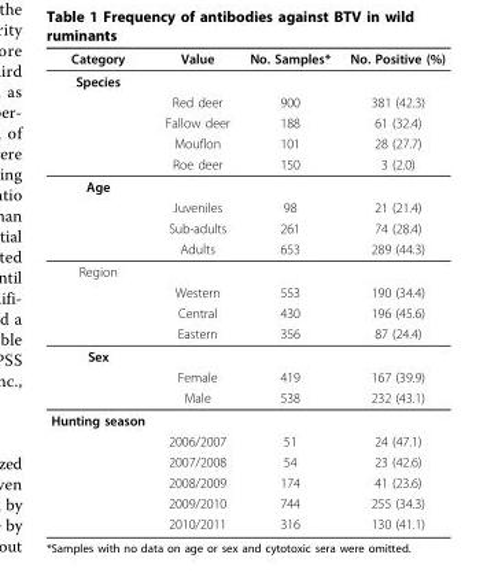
<table><thead><tr><td>Category</td><td>Value</td><td>No. Samples*</td><td>No. Positive (%)</td></tr></thead><tbody><tr><td colspan="4">Species</td></tr><tr><td></td><td>Red deer</td><td>900</td><td>381 (42.3)</td></tr><tr><td></td><td>Fallow deer</td><td>188</td><td>61 (32.4)</td></tr><tr><td></td><td>Mouflon</td><td>101</td><td>28 (27.7)</td></tr><tr><td></td><td>Roe deer</td><td>150</td><td>3 (2.0)</td></tr><tr><td colspan="4">Age</td></tr><tr><td></td><td>Juveniles</td><td>98</td><td>21 (21.4)</td></tr><tr><td></td><td>Sub-adults</td><td>261</td><td>74 (28.4)</td></tr><tr><td></td><td>Adults</td><td>653</td><td>289 (44.3)</td></tr><tr><td colspan="4">Region</td></tr><tr><td></td><td>Western</td><td>553</td><td>190 (34.4)</td></tr><tr><td></td><td>Central</td><td>430</td><td>196 (45.6)</td></tr><tr><td></td><td>Eastern</td><td>356</td><td>87 (24.4)</td></tr><tr><td colspan="4">Sex</td></tr><tr><td></td><td>Female</td><td>419</td><td>167 (39.9)</td></tr><tr><td></td><td>Male</td><td>538</td><td>232 (43.1)</td></tr><tr><td colspan="4">Hunting season</td></tr><tr><td></td><td>2006/2007</td><td>51</td><td>24 (47.1)</td></tr><tr><td></td><td>2007/2008</td><td>54</td><td>23 (42.6)</td></tr><tr><td></td><td>2008/2009</td><td>174</td><td>41 (23.6)</td></tr><tr><td></td><td>2009/2010</td><td>744</td><td>255 (34.3)</td></tr><tr><td></td><td>2010/2011</td><td>316</td><td>130 (41.1)</td></tr></tbody></table>